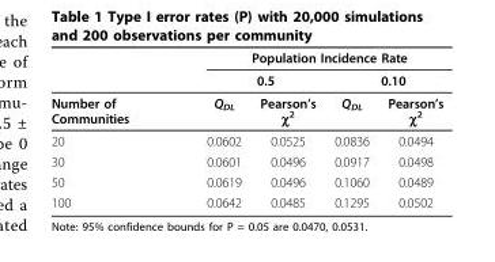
<table><thead><tr><td rowspan="3">Number of Communities</td><td colspan="4">Population Incidence Rate</td></tr><tr><td colspan="2">0.5</td><td colspan="2">0.10</td></tr><tr><td>Q<sub>DL</sub></td><td>Pearson’s χ<sup>2</sup></td><td>Q<sub>DL</sub></td><td>Pearson’s χ<sup>2</sup></td></tr></thead><tbody><tr><td>20</td><td>0.0602</td><td>0.0525</td><td>0.0836</td><td>0.0494</td></tr><tr><td>30</td><td>0.0601</td><td>0.0496</td><td>0.0917</td><td>0.0498</td></tr><tr><td>50</td><td>0.0619</td><td>0.0496</td><td>0.1060</td><td>0.0489</td></tr><tr><td>100</td><td>0.0642</td><td>0.0485</td><td>0.1295</td><td>0.0502</td></tr></tbody></table>